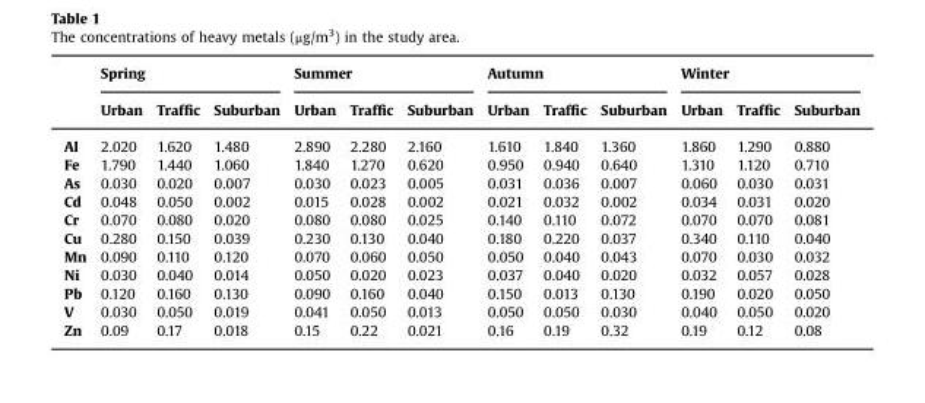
<table><thead><tr><td rowspan="2"></td><td colspan="3">Spring</td><td colspan="3">Summer</td><td colspan="3">Autumn</td><td colspan="3">Winter</td></tr><tr><td>Urban</td><td>Traffic</td><td>Suburban</td><td>Urban</td><td>Traffic</td><td>Suburban</td><td>Urban</td><td>Traffic</td><td>Suburban</td><td>Urban</td><td>Traffic</td><td>Suburban</td></tr></thead><tbody><tr><td>Al</td><td>2.020</td><td>1.620</td><td>1.480</td><td>2.890</td><td>2.280</td><td>2.160</td><td>1.610</td><td>1.840</td><td>1.360</td><td>1.860</td><td>1.290</td><td>0.880</td></tr><tr><td>Fe</td><td>1.790</td><td>1.440</td><td>1.060</td><td>1.840</td><td>1.270</td><td>0.620</td><td>0.950</td><td>0.940</td><td>0.640</td><td>1.310</td><td>1.120</td><td>0.710</td></tr><tr><td>As</td><td>0.030</td><td>0.020</td><td>0.007</td><td>0.030</td><td>0.023</td><td>0.005</td><td>0.031</td><td>0.036</td><td>0.007</td><td>0.060</td><td>0.030</td><td>0.031</td></tr><tr><td>Cd</td><td>0.048</td><td>0.050</td><td>0.002</td><td>0.015</td><td>0.028</td><td>0.002</td><td>0.021</td><td>0.032</td><td>0.002</td><td>0.034</td><td>0.031</td><td>0.020</td></tr><tr><td>Cr</td><td>0.070</td><td>0.080</td><td>0.020</td><td>0.080</td><td>0.080</td><td>0.025</td><td>0.140</td><td>0.110</td><td>0.072</td><td>0.070</td><td>0.070</td><td>0.081</td></tr><tr><td>Cu</td><td>0.280</td><td>0.150</td><td>0.039</td><td>0.230</td><td>0.130</td><td>0.040</td><td>0.180</td><td>0.220</td><td>0.037</td><td>0.340</td><td>0.110</td><td>0.040</td></tr><tr><td>Mn</td><td>0.090</td><td>0.110</td><td>0.120</td><td>0.070</td><td>0.060</td><td>0.050</td><td>0.050</td><td>0.040</td><td>0.043</td><td>0.070</td><td>0.030</td><td>0.032</td></tr><tr><td>Ni</td><td>0.030</td><td>0.040</td><td>0.014</td><td>0.050</td><td>0.020</td><td>0.023</td><td>0.037</td><td>0.040</td><td>0.020</td><td>0.032</td><td>0.057</td><td>0.028</td></tr><tr><td>Pb</td><td>0.120</td><td>0.160</td><td>0.130</td><td>0.090</td><td>0.160</td><td>0.040</td><td>0.150</td><td>0.013</td><td>0.130</td><td>0.190</td><td>0.020</td><td>0.050</td></tr><tr><td>V</td><td>0.030</td><td>0.050</td><td>0.019</td><td>0.041</td><td>0.050</td><td>0.013</td><td>0.050</td><td>0.050</td><td>0.030</td><td>0.040</td><td>0.050</td><td>0.020</td></tr><tr><td>Zn</td><td>0.09</td><td>0.17</td><td>0.018</td><td>0.15</td><td>0.22</td><td>0.021</td><td>0.16</td><td>0.19</td><td>0.32</td><td>0.19</td><td>0.12</td><td>0.08</td></tr></tbody></table>